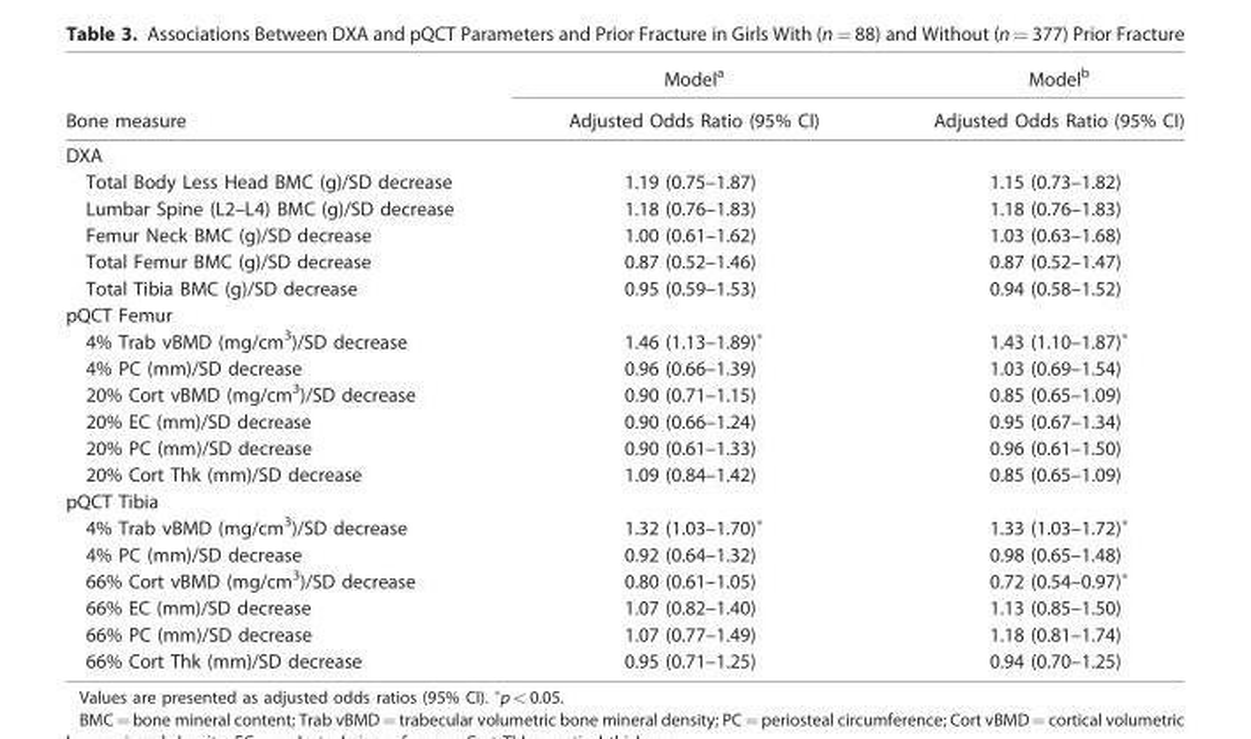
<table><thead><tr><td rowspan="2">Bone measure</td><td rowspan="2">Model<sup>a</sup> Adjusted Odds Ratio (95% CI)</td><td rowspan="2">Model<sup>b</sup> Adjusted Odds Ratio (95% CI)</td></tr><tr></tr></thead><tbody><tr><td colspan="3">DXA</td></tr><tr><td>Total Body Less Head BMC (g)/SD decrease</td><td>1.19 (0.75–1.87)</td><td>1.15 (0.73–1.82)</td></tr><tr><td>Lumbar Spine (L2–L4) BMC (g)/SD decrease</td><td>1.18 (0.76–1.83)</td><td>1.18 (0.76–1.83)</td></tr><tr><td>Femur Neck BMC (g)/SD decrease</td><td>1.00 (0.61–1.62)</td><td>1.03 (0.63–1.68)</td></tr><tr><td>Total Femur BMC (g)/SD decrease</td><td>0.87 (0.52–1.46)</td><td>0.87 (0.52–1.47)</td></tr><tr><td>Total Tibia BMC (g)/SD decrease</td><td>0.95 (0.59–1.53)</td><td>0.94 (0.58–1.52)</td></tr><tr><td colspan="3">pQCT Femur</td></tr><tr><td>4% Trab vBMD (mg/cm<sup>3</sup>)/SD decrease</td><td>1.46 (1.13–1.89)*</td><td>1.43 (1.10–1.87)*</td></tr><tr><td>4% PC (mm)/SD decrease</td><td>0.96 (0.66–1.39)</td><td>1.03 (0.69–1.54)</td></tr><tr><td>20% Cort vBMD (mg/cm<sup>3</sup>)/SD decrease</td><td>0.90 (0.71–1.15)</td><td>0.85 (0.65–1.09)</td></tr><tr><td>20% EC (mm)/SD decrease</td><td>0.90 (0.66–1.24)</td><td>0.95 (0.67–1.34)</td></tr><tr><td>20% PC (mm)/SD decrease</td><td>0.90 (0.61–1.33)</td><td>0.96 (0.61–1.50)</td></tr><tr><td>20% Cort Thk (mm)/SD decrease</td><td>1.09 (0.84–1.42)</td><td>0.85 (0.65–1.09)</td></tr><tr><td colspan="3">pQCT Tibia</td></tr><tr><td>4% Trab vBMD (mg/cm<sup>3</sup>)/SD decrease</td><td>1.32 (1.03–1.70)*</td><td>1.33 (1.03–1.72)*</td></tr><tr><td>4% PC (mm)/SD decrease</td><td>0.92 (0.64–1.32)</td><td>0.98 (0.65–1.48)</td></tr><tr><td>66% Cort vBMD (mg/cm<sup>3</sup>)/SD decrease</td><td>0.80 (0.61–1.05)</td><td>0.72 (0.54–0.97)*</td></tr><tr><td>66% EC (mm)/SD decrease</td><td>1.07 (0.82–1.40)</td><td>1.13 (0.85–1.50)</td></tr><tr><td>66% PC (mm)/SD decrease</td><td>1.07 (0.77–1.49)</td><td>1.18 (0.81–1.74)</td></tr><tr><td>66% Cort Thk (mm)/SD decrease</td><td>0.95 (0.71–1.25)</td><td>0.94 (0.70–1.25)</td></tr></tbody></table>